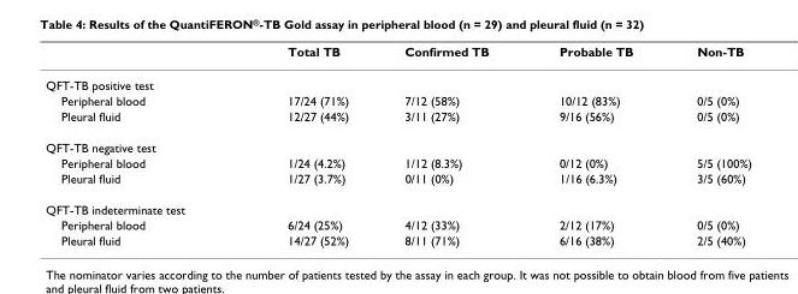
<table><thead><tr><td></td><td>Total TB</td><td>Confirmed TB</td><td>Probable TB</td><td>Non-TB</td></tr></thead><tbody><tr><td colspan="5">QFT-TB positive test</td></tr><tr><td>Peripheral blood</td><td>17/24 (71%)</td><td>7/12 (58%)</td><td>10/12 (83%)</td><td>0/5 (0%)</td></tr><tr><td>Pleural fluid</td><td>12/27 (44%)</td><td>3/11 (27%)</td><td>9/16 (56%)</td><td>0/5 (0%)</td></tr><tr><td colspan="5">QFT-TB negative test</td></tr><tr><td>Peripheral blood</td><td>1/24 (4.2%)</td><td>1/12 (8.3%)</td><td>0/12 (0%)</td><td>5/5 (100%)</td></tr><tr><td>Pleural fluid</td><td>1/27 (3.7%)</td><td>0/11 (0%)</td><td>1/16 (6.3%)</td><td>3/5 (60%)</td></tr><tr><td colspan="5">QFT-TB indeterminate test</td></tr><tr><td>Peripheral blood</td><td>6/24 (25%)</td><td>4/12 (33%)</td><td>2/12 (17%)</td><td>0/5 (0%)</td></tr><tr><td>Pleural fluid</td><td>14/27 (52%)</td><td>8/11 (71%)</td><td>6/16 (38%)</td><td>2/5 (40%)</td></tr></tbody></table>